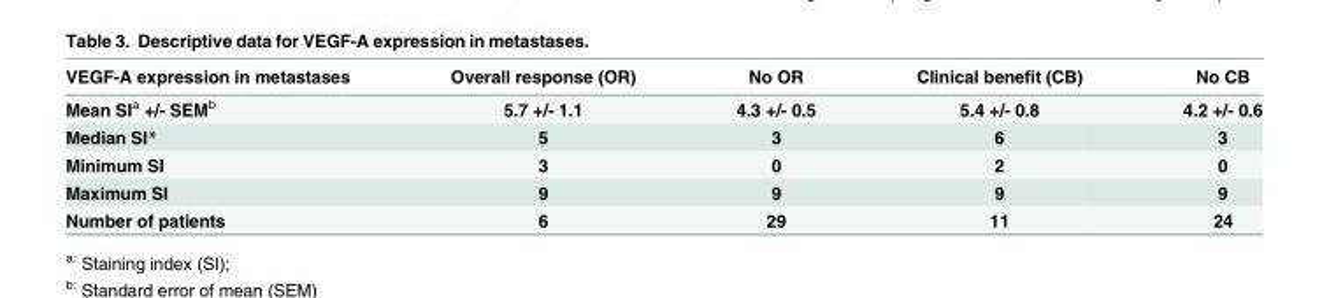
<table><thead><tr><td>VEGF-A expression in metastases</td><td>Overall response (OR)</td><td>No OR</td><td>Clinical benefit (CB)</td><td>No CB</td></tr></thead><tbody><tr><td>Mean SI<sup>a</sup> +/- SEM<sup>b</sup></td><td>5.7 +/- 1.1</td><td>4.3 +/- 0.5</td><td>5.4 +/- 0.8</td><td>4.2 +/- 0.6</td></tr><tr><td>Median SI*</td><td>5</td><td>3</td><td>6</td><td>3</td></tr><tr><td>Minimum SI</td><td>3</td><td>0</td><td>2</td><td>0</td></tr><tr><td>Maximum SI</td><td>9</td><td>9</td><td>9</td><td>9</td></tr><tr><td>Number of patients</td><td>6</td><td>29</td><td>11</td><td>24</td></tr></tbody></table>